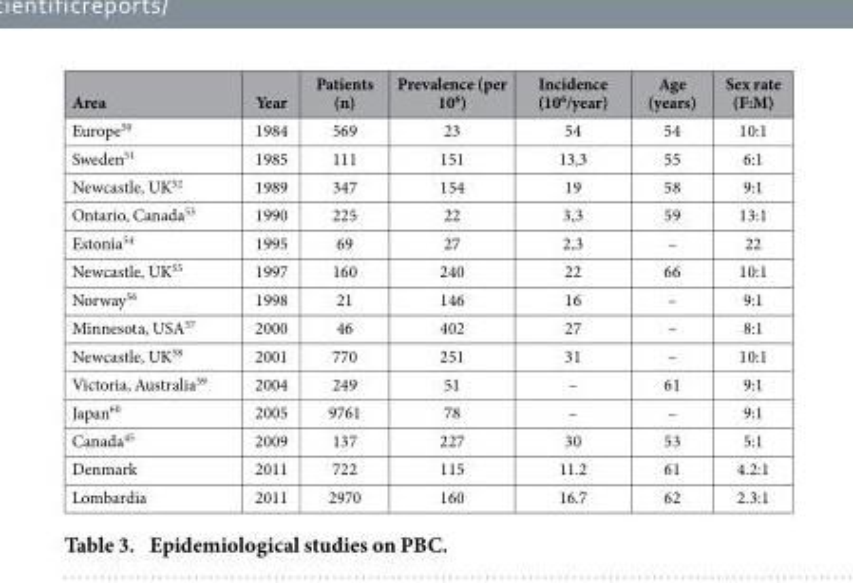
<table><thead><tr><td>Area</td><td>Year</td><td>Patients (n)</td><td>Prevalence (per 10<sup>6</sup>)</td><td>Incidence (10<sup>6</sup>/year)</td><td>Age (years)</td><td>Sex rate (F:M)</td></tr></thead><tbody><tr><td>Europe<sup>50</sup></td><td>1984</td><td>569</td><td>23</td><td>54</td><td>54</td><td>10:1</td></tr><tr><td>Sweden<sup>51</sup></td><td>1985</td><td>111</td><td>151</td><td>13,3</td><td>55</td><td>6:1</td></tr><tr><td>Newcastle, UK<sup>52</sup></td><td>1989</td><td>347</td><td>154</td><td>19</td><td>58</td><td>9:1</td></tr><tr><td>Ontario, Canada<sup>53</sup></td><td>1990</td><td>225</td><td>22</td><td>3,3</td><td>59</td><td>13:1</td></tr><tr><td>Estonia<sup>54</sup></td><td>1995</td><td>69</td><td>27</td><td>2,3</td><td>–</td><td>22</td></tr><tr><td>Newcastle, UK<sup>55</sup></td><td>1997</td><td>160</td><td>240</td><td>22</td><td>66</td><td>10:1</td></tr><tr><td>Norway<sup>56</sup></td><td>1998</td><td>21</td><td>146</td><td>16</td><td>–</td><td>9:1</td></tr><tr><td>Minnesota, USA<sup>57</sup></td><td>2000</td><td>46</td><td>402</td><td>27</td><td>–</td><td>8:1</td></tr><tr><td>Newcastle, UK<sup>58</sup></td><td>2001</td><td>770</td><td>251</td><td>31</td><td>–</td><td>10:1</td></tr><tr><td>Victoria, Australia<sup>59</sup></td><td>2004</td><td>249</td><td>51</td><td>–</td><td>61</td><td>9:1</td></tr><tr><td>Japan<sup>60</sup></td><td>2005</td><td>9761</td><td>78</td><td>–</td><td>–</td><td>9:1</td></tr><tr><td>Canada<sup>45</sup></td><td>2009</td><td>137</td><td>227</td><td>30</td><td>53</td><td>5:1</td></tr><tr><td>Denmark</td><td>2011</td><td>722</td><td>115</td><td>11.2</td><td>61</td><td>4.2:1</td></tr><tr><td>Lombardia</td><td>2011</td><td>2970</td><td>160</td><td>16.7</td><td>62</td><td>2.3:1</td></tr></tbody></table>